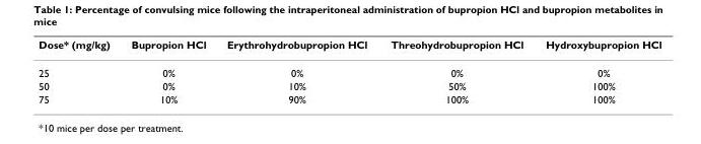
<table><thead><tr><td>Dose* (mg/kg)</td><td>Bupropion HCl</td><td>Erythrohydrobupropion HCl</td><td>Threohydrobupropion HCl</td><td>Hydroxybupropion HCl</td></tr></thead><tbody><tr><td>25</td><td>0%</td><td>0%</td><td>0%</td><td>0%</td></tr><tr><td>50</td><td>0%</td><td>10%</td><td>50%</td><td>100%</td></tr><tr><td>75</td><td>10%</td><td>90%</td><td>100%</td><td>100%</td></tr></tbody></table>